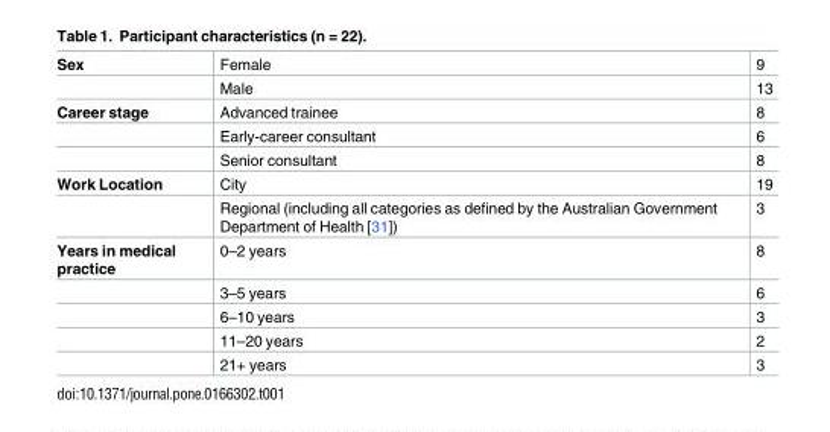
<table><tbody><tr><td rowspan="2">Sex</td><td>Female</td><td>9</td></tr><tr><td>Male</td><td>13</td></tr><tr><td rowspan="3">Career stage</td><td>Advanced trainee</td><td>8</td></tr><tr><td>Early-career consultant</td><td>6</td></tr><tr><td>Senior consultant</td><td>8</td></tr><tr><td rowspan="2">Work Location</td><td>City</td><td>19</td></tr><tr><td>Regional (including all categories as defined by the Australian Government Department of Health [31])</td><td>3</td></tr><tr><td rowspan="5">Years in medical practice</td><td>0–2 years</td><td>8</td></tr><tr><td>3–5 years</td><td>6</td></tr><tr><td>6–10 years</td><td>3</td></tr><tr><td>11–20 years</td><td>2</td></tr><tr><td>21+ years</td><td>3</td></tr></tbody></table>